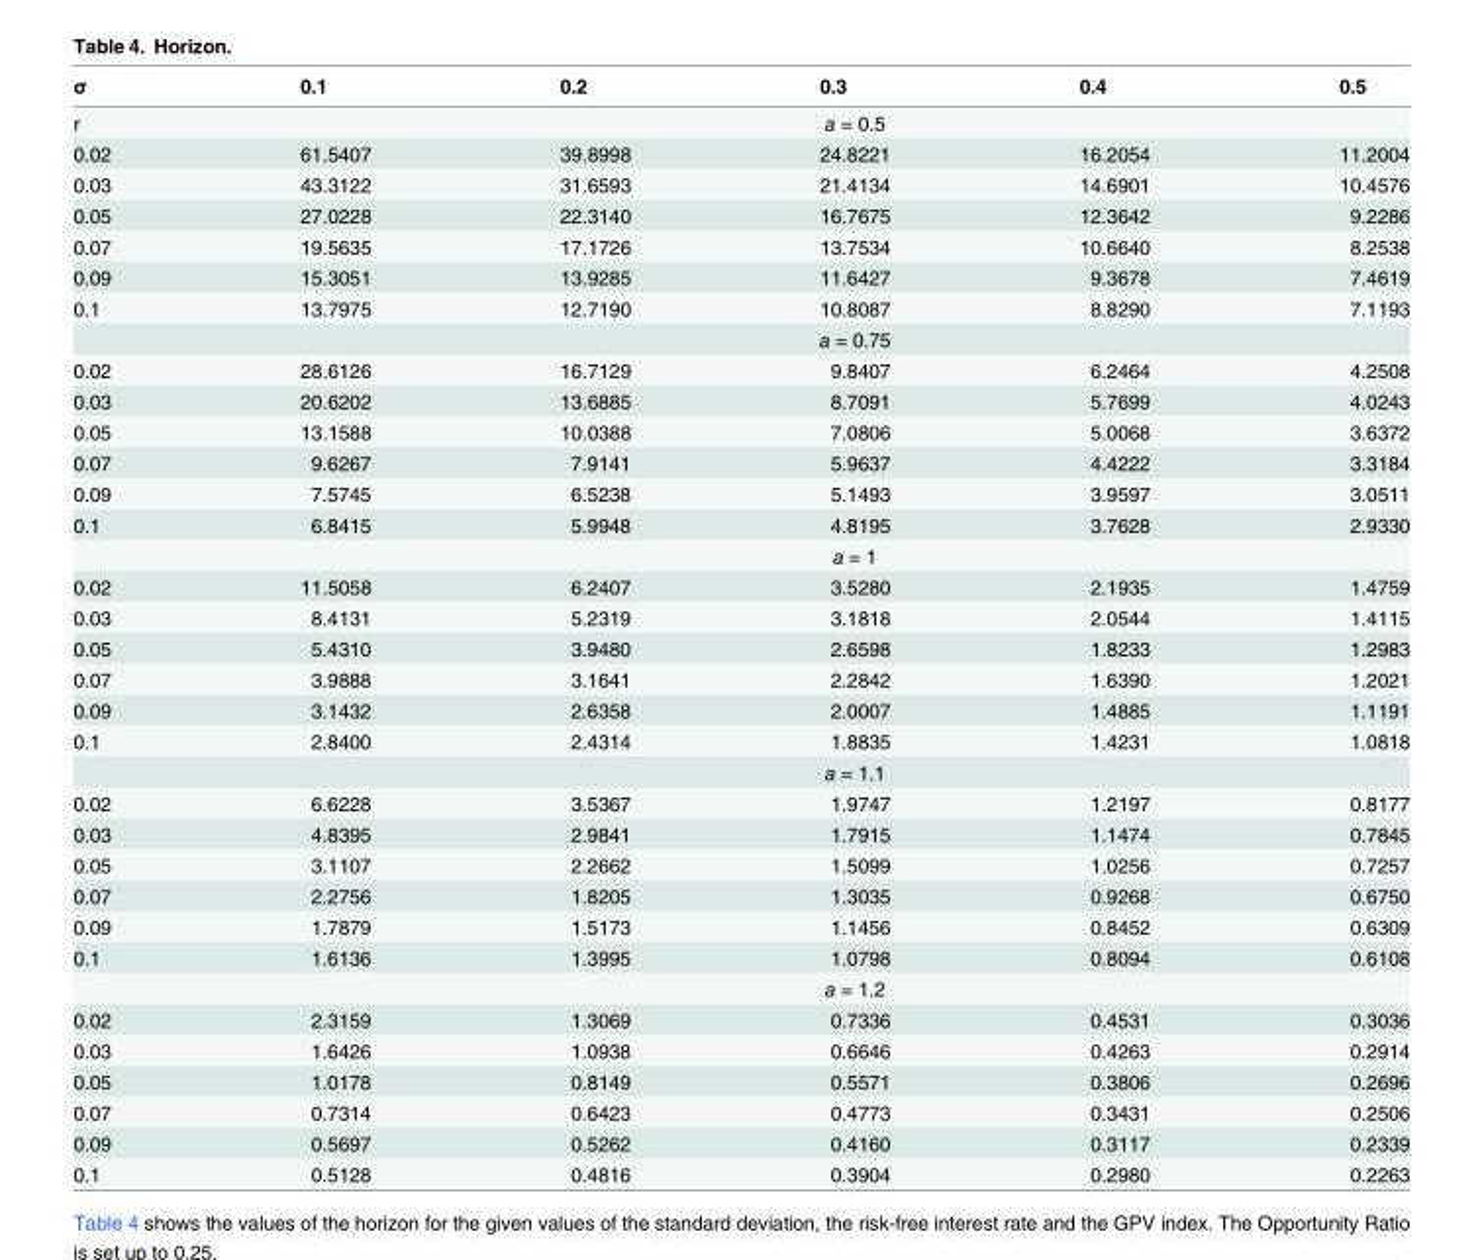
<table><thead><tr><td>σ</td><td>0.1</td><td>0.2</td><td>0.3</td><td>0.4</td><td>0.5</td></tr></thead><tbody><tr><td>r</td><td colspan="5">a = 0.5</td></tr><tr><td>0.02</td><td>61.5407</td><td>39.8998</td><td>24.8221</td><td>16.2054</td><td>11.2004</td></tr><tr><td>0.03</td><td>43.3122</td><td>31.6593</td><td>21.4134</td><td>14.6901</td><td>10.4576</td></tr><tr><td>0.05</td><td>27.0228</td><td>22.3140</td><td>16.7675</td><td>12.3642</td><td>9.2286</td></tr><tr><td>0.07</td><td>19.5635</td><td>17.1726</td><td>13.7534</td><td>10.6640</td><td>8.2538</td></tr><tr><td>0.09</td><td>15.3051</td><td>13.9285</td><td>11.6427</td><td>9.3678</td><td>7.4619</td></tr><tr><td rowspan="2">0.1</td><td>13.7975</td><td>12.7190</td><td>10.8087</td><td>8.8290</td><td>7.1193</td></tr><tr><td colspan="5">a = 0.75</td></tr><tr><td>0.02</td><td>28.6126</td><td>16.7129</td><td>9.8407</td><td>6.2464</td><td>4.2508</td></tr><tr><td>0.03</td><td>20.6202</td><td>13.6885</td><td>8.7091</td><td>5.7699</td><td>4.0243</td></tr><tr><td>0.05</td><td>13.1588</td><td>10.0388</td><td>7.0806</td><td>5.0068</td><td>3.6372</td></tr><tr><td>0.07</td><td>9.6267</td><td>7.9141</td><td>5.9637</td><td>4.4222</td><td>3.3184</td></tr><tr><td>0.09</td><td>7.5745</td><td>6.5238</td><td>5.1493</td><td>3.9597</td><td>3.0511</td></tr><tr><td rowspan="2">0.1</td><td>6.8415</td><td>5.9948</td><td>4.8195</td><td>3.7628</td><td>2.9330</td></tr><tr><td colspan="5">a = 1</td></tr><tr><td>0.02</td><td>11.5058</td><td>6.2407</td><td>3.5280</td><td>2.1935</td><td>1.4759</td></tr><tr><td>0.03</td><td>8.4131</td><td>5.2319</td><td>3.1818</td><td>2.0544</td><td>1.4115</td></tr><tr><td>0.05</td><td>5.4310</td><td>3.9480</td><td>2.6598</td><td>1.8233</td><td>1.2983</td></tr><tr><td>0.07</td><td>3.9888</td><td>3.1641</td><td>2.2842</td><td>1.6390</td><td>1.2021</td></tr><tr><td>0.09</td><td>3.1432</td><td>2.6358</td><td>2.0007</td><td>1.4885</td><td>1.1191</td></tr><tr><td rowspan="2">0.1</td><td>2.8400</td><td>2.4314</td><td>1.8835</td><td>1.4231</td><td>1.0818</td></tr><tr><td colspan="5">a = 1.1</td></tr><tr><td>0.02</td><td>6.6228</td><td>3.5367</td><td>1.9747</td><td>1.2197</td><td>0.8177</td></tr><tr><td>0.03</td><td>4.8395</td><td>2.9841</td><td>1.7915</td><td>1.1474</td><td>0.7845</td></tr><tr><td>0.05</td><td>3.1107</td><td>2.2662</td><td>1.5099</td><td>1.0256</td><td>0.7257</td></tr><tr><td>0.07</td><td>2.2756</td><td>1.8205</td><td>1.3035</td><td>0.9268</td><td>0.6750</td></tr><tr><td>0.09</td><td>1.7879</td><td>1.5173</td><td>1.1456</td><td>0.8452</td><td>0.6309</td></tr><tr><td rowspan="2">0.1</td><td>1.6136</td><td>1.3995</td><td>1.0798</td><td>0.8094</td><td>0.6108</td></tr><tr><td colspan="5">a = 1.2</td></tr><tr><td>0.02</td><td>2.3159</td><td>1.3069</td><td>0.7336</td><td>0.4531</td><td>0.3036</td></tr><tr><td>0.03</td><td>1.6426</td><td>1.0938</td><td>0.6646</td><td>0.4263</td><td>0.2914</td></tr><tr><td>0.05</td><td>1.0178</td><td>0.8149</td><td>0.5571</td><td>0.3806</td><td>0.2696</td></tr><tr><td>0.07</td><td>0.7314</td><td>0.6423</td><td>0.4773</td><td>0.3431</td><td>0.2506</td></tr><tr><td>0.09</td><td>0.5697</td><td>0.5262</td><td>0.4160</td><td>0.3117</td><td>0.2339</td></tr><tr><td>0.1</td><td>0.5128</td><td>0.4816</td><td>0.3904</td><td>0.2980</td><td>0.2263</td></tr></tbody></table>